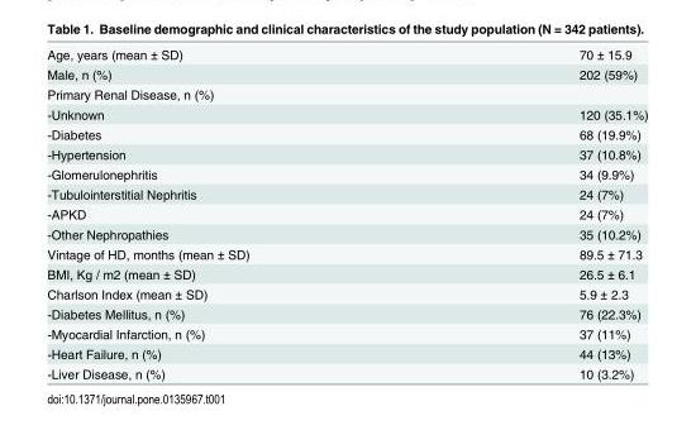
<table><tbody><tr><td>Age, years (mean ± SD)</td><td>70 ± 15.9</td></tr><tr><td>Male, n (%)</td><td>202 (59%)</td></tr><tr><td colspan="2">Primary Renal Disease, n (%)</td></tr><tr><td>-Unknown</td><td>120 (35.1%)</td></tr><tr><td>-Diabetes</td><td>68 (19.9%)</td></tr><tr><td>-Hypertension</td><td>37 (10.8%)</td></tr><tr><td>-Glomerulonephritis</td><td>34 (9.9%)</td></tr><tr><td>-Tubulointerstitial Nephritis</td><td>24 (7%)</td></tr><tr><td>-APKD</td><td>24 (7%)</td></tr><tr><td>-Other Nephropathies</td><td>35 (10.2%)</td></tr><tr><td>Vintage of HD, months (mean ± SD)</td><td>89.5 ± 71.3</td></tr><tr><td>BMI, Kg / m2 (mean ± SD)</td><td>26.5 ± 6.1</td></tr><tr><td>Charlson Index (mean ± SD)</td><td>5.9 ± 2.3</td></tr><tr><td>-Diabetes Mellitus, n (%)</td><td>76 (22.3%)</td></tr><tr><td>-Myocardial Infarction, n (%)</td><td>37 (11%)</td></tr><tr><td>-Heart Failure, n (%)</td><td>44 (13%)</td></tr><tr><td>-Liver Disease, n (%)</td><td>10 (3.2%)</td></tr></tbody></table>